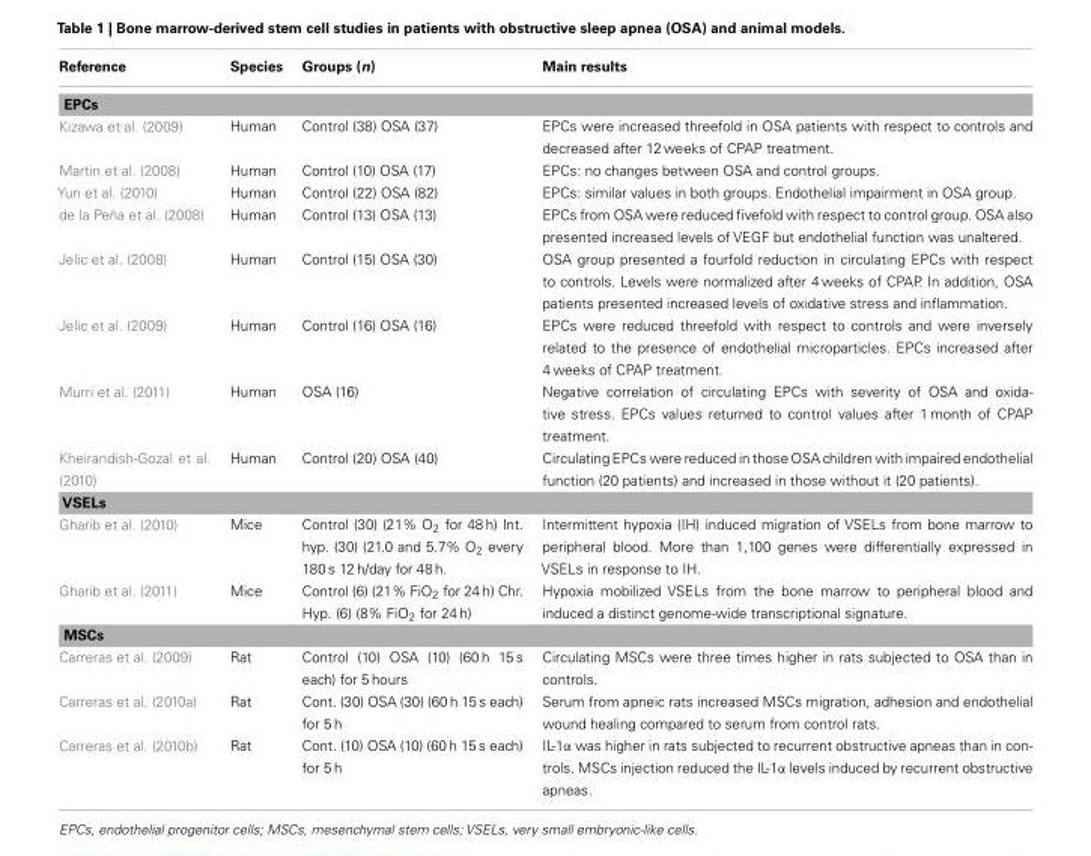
<table><thead><tr><td>Reference</td><td>Species</td><td>Groups (n)</td><td>Main results</td></tr></thead><tbody><tr><td colspan="4">EPCs</td></tr><tr><td>Kizawa et al. (2009)</td><td>Human</td><td>Control (38) OSA (37)</td><td>EPCs were increased threefold in OSA patients with respect to controls and decreased after 12 weeks of CPAP treatment.</td></tr><tr><td>Martin et al. (2008)</td><td>Human</td><td>Control (10) OSA (17)</td><td>EPCs: no changes between OSA and control groups.</td></tr><tr><td>Yun et al. (2010)</td><td>Human</td><td>Control (22) OSA (82)</td><td>EPCs: similar values in both groups. Endothelial impairment in OSA group.</td></tr><tr><td>de la Peña et al. (2008)</td><td>Human</td><td>Control (13) OSA (13)</td><td>EPCs from OSA were reduced fivefold with respect to control group. OSA also presented increased levels of VEGF but endothelial function was unaltered.</td></tr><tr><td>Jelic et al. (2008)</td><td>Human</td><td>Control (15) OSA (30)</td><td>OSA group presented a fourfold reduction in circulating EPCs with respect to controls. Levels were normalized after 4 weeks of CPAP. In addition, OSA patients presented increased levels of oxidative stress and inflammation.</td></tr><tr><td>Jelic et al. (2009)</td><td>Human</td><td>Control (16) OSA (16)</td><td>EPCs were reduced threefold with respect to controls and were inversely related to the presence of endothelial microparticles. EPCs increased after 4 weeks of CPAP treatment.</td></tr><tr><td>Murri et al. (2011)</td><td>Human</td><td>OSA (16)</td><td>Negative correlation of circulating EPCs with severity of OSA and oxida- tive stress. EPCs values returned to control values after 1 month of CPAP treatment.</td></tr><tr><td>Kheirandish-Gozal et al. (2010)</td><td>Human</td><td>Control (20) OSA (40)</td><td>Circulating EPCs were reduced in those OSA children with impaired endothelial function (20 patients) and increased in those without it (20 patients).</td></tr><tr><td colspan="4">VSELs</td></tr><tr><td>Gharib et al. (2010)</td><td>Mice</td><td>Control (30) (21% O<sub>2</sub> for 48 h) Int. hyp. (30) (21.0 and 5.7% O<sub>2</sub> every 180 s 12 h/day for 48 h.</td><td>Intermittent hypoxia (IH) induced migration of VSELs from bone marrow to peripheral blood. More than 1,100 genes were differentially expressed in VSELs in response to IH.</td></tr><tr><td>Gharib et al. (2011)</td><td>Mice</td><td>Control (6) (21% FiO<sub>2</sub> for 24 h) Chr. Hyp. (6) (8% FiO<sub>2</sub> for 24 h)</td><td>Hypoxia mobilized VSELs from the bone marrow to peripheral blood and induced a distinct genome-wide transcriptional signature.</td></tr><tr><td colspan="4">MSCs</td></tr><tr><td>Carreras et al. (2009)</td><td>Rat</td><td>Control (10) OSA (10) (60 h 15 s each) for 5 hours</td><td>Circulating MSCs were three times higher in rats subjected to OSA than in controls.</td></tr><tr><td>Carreras et al. (2010a)</td><td>Rat</td><td>Cont. (30) OSA (30) (60 h 15 s each) for 5 h</td><td>Serum from apneic rats increased MSCs migration, adhesion and endothelial wound healing compared to serum from control rats.</td></tr><tr><td>Carreras et al. (2010b)</td><td>Rat</td><td>Cont. (10) OSA (10) (60 h 15 s each) for 5 h</td><td>IL-1α was higher in rats subjected to recurrent obstructive apneas than in con- trols. MSCs injection reduced the IL-1α levels induced by recurrent obstructive apneas.</td></tr></tbody></table>